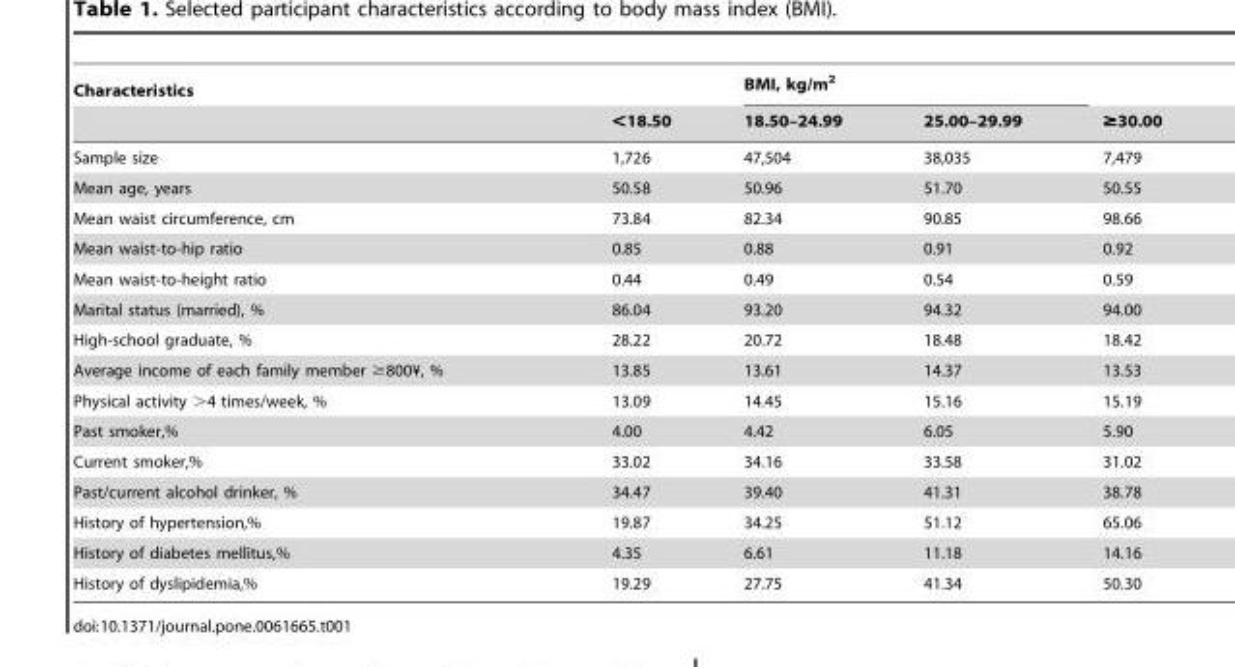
<table><thead><tr><td rowspan="2">Characteristics</td><td rowspan="2">&lt;18.50</td><td colspan="2">BMI, kg/m<sup>2</sup></td><td rowspan="2">≥30.00</td></tr><tr><td>18.50–24.99</td><td>25.00–29.99</td></tr></thead><tbody><tr><td>Sample size</td><td>1,726</td><td>47,504</td><td>38,035</td><td>7,479</td></tr><tr><td>Mean age, years</td><td>50.58</td><td>50.96</td><td>51.70</td><td>50.55</td></tr><tr><td>Mean waist circumference, cm</td><td>73.84</td><td>82.34</td><td>90.85</td><td>98.66</td></tr><tr><td>Mean waist-to-hip ratio</td><td>0.85</td><td>0.88</td><td>0.91</td><td>0.92</td></tr><tr><td>Mean waist-to-height ratio</td><td>0.44</td><td>0.49</td><td>0.54</td><td>0.59</td></tr><tr><td>Marital status (married), %</td><td>86.04</td><td>93.20</td><td>94.32</td><td>94.00</td></tr><tr><td>High-school graduate, %</td><td>28.22</td><td>20.72</td><td>18.48</td><td>18.42</td></tr><tr><td>Average income of each family member ≥800¥, %</td><td>13.85</td><td>13.61</td><td>14.37</td><td>13.53</td></tr><tr><td>Physical activity &gt;4 times/week, %</td><td>13.09</td><td>14.45</td><td>15.16</td><td>15.19</td></tr><tr><td>Past smoker,%</td><td>4.00</td><td>4.42</td><td>6.05</td><td>5.90</td></tr><tr><td>Current smoker,%</td><td>33.02</td><td>34.16</td><td>33.58</td><td>31.02</td></tr><tr><td>Past/current alcohol drinker, %</td><td>34.47</td><td>39.40</td><td>41.31</td><td>38.78</td></tr><tr><td>History of hypertension,%</td><td>19.87</td><td>34.25</td><td>51.12</td><td>65.06</td></tr><tr><td>History of diabetes mellitus,%</td><td>4.35</td><td>6.61</td><td>11.18</td><td>14.16</td></tr><tr><td>History of dyslipidemia,%</td><td>19.29</td><td>27.75</td><td>41.34</td><td>50.30</td></tr></tbody></table>